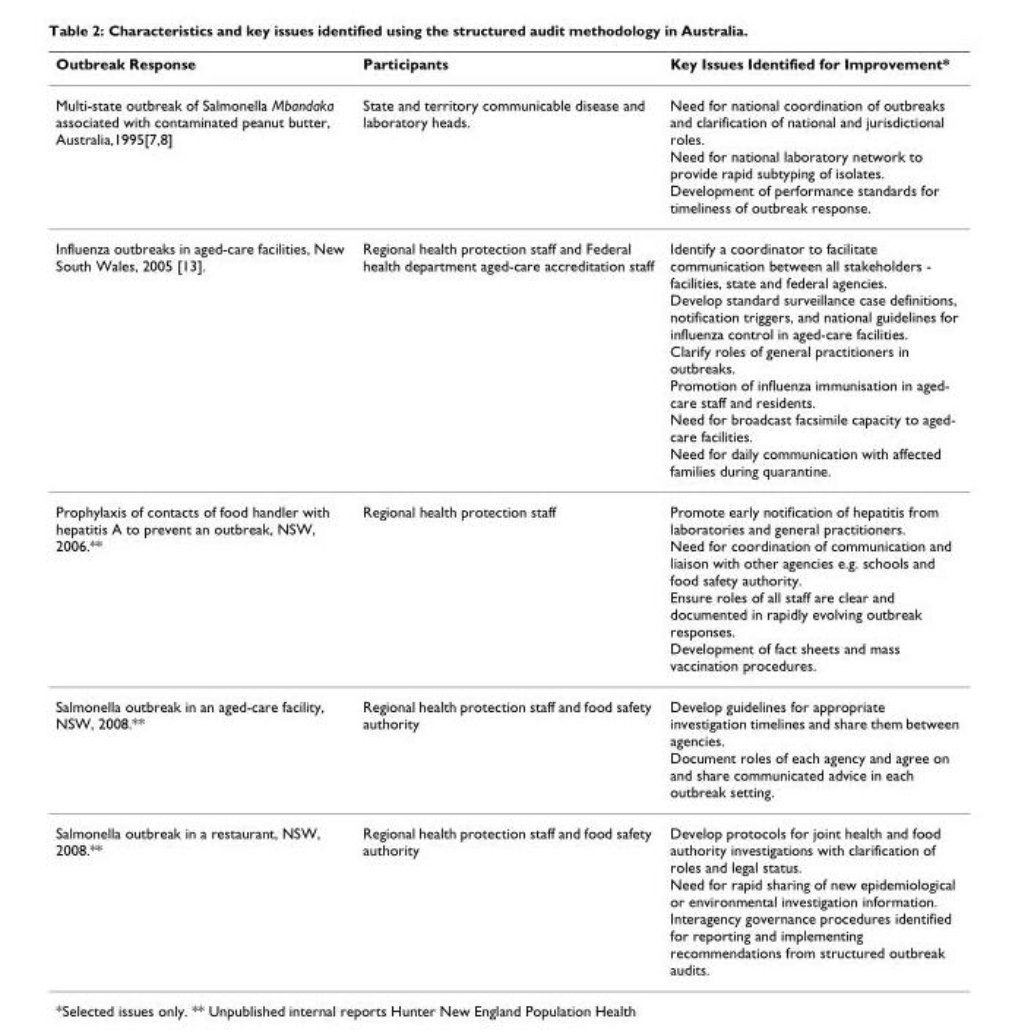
<table><thead><tr><td>Outbreak Response</td><td>Participants</td><td>Key Issues Identified for Improvement*</td></tr></thead><tbody><tr><td>Multi-state outbreak of Salmonella Mbandaka associated with contaminated peanut butter, Australia,1995[7,8]</td><td>State and territory communicable disease and laboratory heads.</td><td>Need for national coordination of outbreaks and clarification of national and jurisdictional roles. Need for national laboratory network to provide rapid subtyping of isolates. Development of performance standards for timeliness of outbreak response.</td></tr><tr><td>Influenza outbreaks in aged-care facilities, New South Wales, 2005 [13].</td><td>Regional health protection staff and Federal health department aged-care accreditation staff</td><td>Identify a coordinator to facilitate communication between all stakeholders - facilities, state and federal agencies. Develop standard surveillance case definitions, notification triggers, and national guidelines for influenza control in aged-care facilities. Clarify roles of general practitioners in outbreaks. Promotion of influenza immunisation in aged- care staff and residents. Need for broadcast facsimile capacity to aged- care facilities. Need for daily communication with affected families during quarantine.</td></tr><tr><td>Prophylaxis of contacts of food handler with hepatitis A to prevent an outbreak, NSW, 2006.**</td><td>Regional health protection staff</td><td>Promote early notification of hepatitis from laboratories and general practitioners. Need for coordination of communication and liaison with other agencies e.g. schools and food safety authority. Ensure roles of all staff are clear and documented in rapidly evolving outbreak responses. Development of fact sheets and mass vaccination procedures.</td></tr><tr><td>Salmonella outbreak in an aged-care facility, NSW, 2008.**</td><td>Regional health protection staff and food safety authority</td><td>Develop guidelines for appropriate investigation timelines and share them between agencies. Document roles of each agency and agree on and share communicated advice in each outbreak setting.</td></tr><tr><td>Salmonella outbreak in a restaurant, NSW, 2008.**</td><td>Regional health protection staff and food safety authority</td><td>Develop protocols for joint health and food authority investigations with clarification of roles and legal status. Need for rapid sharing of new epidemiological or environmental investigation information. Interagency governance procedures identified for reporting and implementing recommendations from structured outbreak audits.</td></tr></tbody></table>